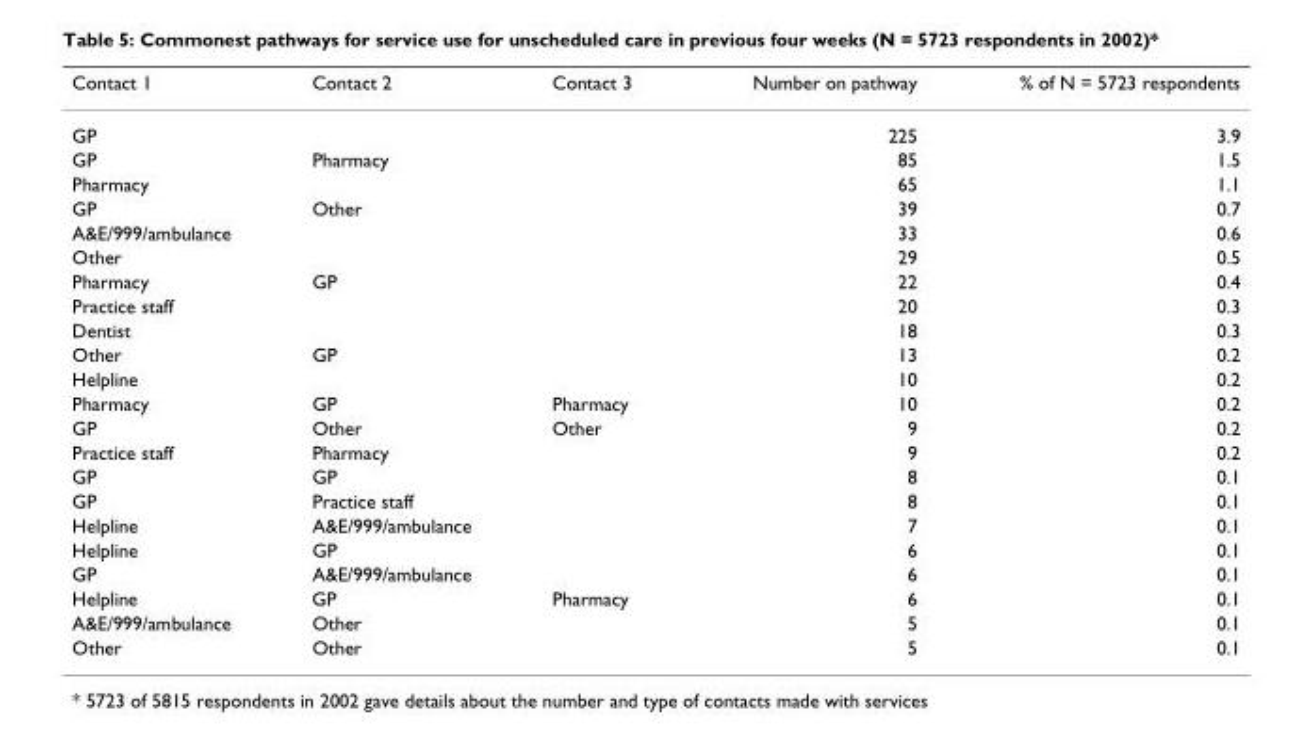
<table><thead><tr><td>Contact 1</td><td>Contact 2</td><td>Contact 3</td><td>Number on pathway</td><td>% of N = 5723 respondents</td></tr></thead><tbody><tr><td>GP</td><td></td><td></td><td>225</td><td>3.9</td></tr><tr><td>GP</td><td>Pharmacy</td><td></td><td>85</td><td>1.5</td></tr><tr><td>Pharmacy</td><td></td><td></td><td>65</td><td>1.1</td></tr><tr><td>GP</td><td>Other</td><td></td><td>39</td><td>0.7</td></tr><tr><td>A&amp;E/999/ambulance</td><td></td><td></td><td>33</td><td>0.6</td></tr><tr><td>Other</td><td></td><td></td><td>29</td><td>0.5</td></tr><tr><td>Pharmacy</td><td>GP</td><td></td><td>22</td><td>0.4</td></tr><tr><td>Practice staff</td><td></td><td></td><td>20</td><td>0.3</td></tr><tr><td>Dentist</td><td></td><td></td><td>18</td><td>0.3</td></tr><tr><td>Other</td><td>GP</td><td></td><td>13</td><td>0.2</td></tr><tr><td>Helpline</td><td></td><td></td><td>10</td><td>0.2</td></tr><tr><td>Pharmacy</td><td>GP</td><td>Pharmacy</td><td>10</td><td>0.2</td></tr><tr><td>GP</td><td>Other</td><td>Other</td><td>9</td><td>0.2</td></tr><tr><td>Practice staff</td><td>Pharmacy</td><td></td><td>9</td><td>0.2</td></tr><tr><td>GP</td><td>GP</td><td></td><td>8</td><td>0.1</td></tr><tr><td>GP</td><td>Practice staff</td><td></td><td>8</td><td>0.1</td></tr><tr><td>Helpline</td><td>A&amp;E/999/ambulance</td><td></td><td>7</td><td>0.1</td></tr><tr><td>Helpline</td><td>GP</td><td></td><td>6</td><td>0.1</td></tr><tr><td>GP</td><td>A&amp;E/999/ambulance</td><td></td><td>6</td><td>0.1</td></tr><tr><td>Helpline</td><td>GP</td><td>Pharmacy</td><td>6</td><td>0.1</td></tr><tr><td>A&amp;E/999/ambulance</td><td>Other</td><td></td><td>5</td><td>0.1</td></tr><tr><td>Other</td><td>Other</td><td></td><td>5</td><td>0.1</td></tr></tbody></table>